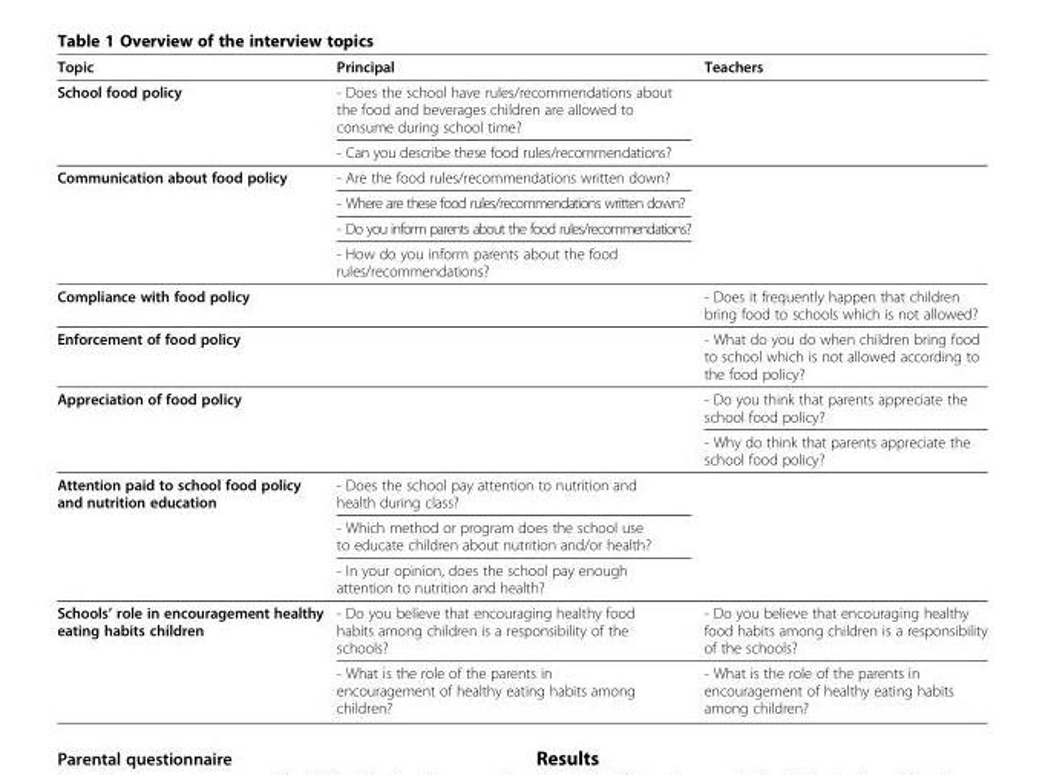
<table><thead><tr><td>Topic</td><td>Principal</td><td>Teachers</td></tr></thead><tbody><tr><td rowspan="2">School food policy</td><td>- Does the school have rules/recommendations about the food and beverages children are allowed to consume during school time?</td><td></td></tr><tr><td>- Can you describe these food rules/recommendations?</td><td></td></tr><tr><td rowspan="4">Communication about food policy</td><td>- Are the food rules/recommendations written down?</td><td></td></tr><tr><td>- Where are these food rules/recommendations written down?</td><td></td></tr><tr><td>- Do you inform parents about the food rules/recommendations?</td><td></td></tr><tr><td>- How do you inform parents about the food rules/recommendations?</td><td></td></tr><tr><td>Compliance with food policy</td><td></td><td>- Does it frequently happen that children bring food to schools which is not allowed?</td></tr><tr><td>Enforcement of food policy</td><td></td><td>- What do you do when children bring food to school which is not allowed according to the food policy?</td></tr><tr><td rowspan="2">Appreciation of food policy</td><td></td><td>- Do you think that parents appreciate the school food policy?</td></tr><tr><td></td><td>- Why do think that parents appreciate the school food policy?</td></tr><tr><td rowspan="3">Attention paid to school food policy and nutrition education</td><td>- Does the school pay attention to nutrition and health during class?</td><td></td></tr><tr><td>- Which method or program does the school use to educate children about nutrition and/or health?</td><td></td></tr><tr><td>- In your opinion, does the school pay enough attention to nutrition and health?</td><td></td></tr><tr><td rowspan="2">Schools’ role in encouragement healthy eating habits children</td><td>- Do you believe that encouraging healthy food habits among children is a responsibility of the schools?</td><td>- Do you believe that encouraging healthy food habits among children is a responsibility of the schools?</td></tr><tr><td>- What is the role of the parents in encouragement of healthy eating habits among children?</td><td>- What is the role of the parents in encouragement of healthy eating habits among children?</td></tr></tbody></table>